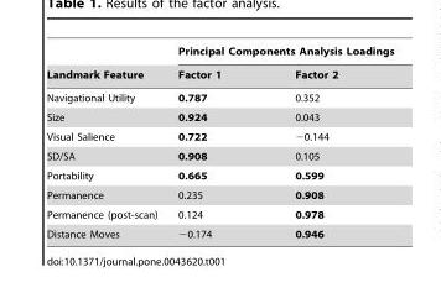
<table><thead><tr><td rowspan="2">Landmark Feature</td><td colspan="2">Principal Components Analysis Loadings</td></tr><tr><td>Factor 1</td><td>Factor 2</td></tr></thead><tbody><tr><td>Navigational Utility</td><td>0.787</td><td>0.352</td></tr><tr><td>Size</td><td>0.924</td><td>0.043</td></tr><tr><td>Visual Salience</td><td>0.722</td><td>−0.144</td></tr><tr><td>SD/SA</td><td>0.908</td><td>0.105</td></tr><tr><td>Portability</td><td>0.665</td><td>0.599</td></tr><tr><td>Permanence</td><td>0.235</td><td>0.908</td></tr><tr><td>Permanence (post-scan)</td><td>0.124</td><td>0.978</td></tr><tr><td>Distance Moves</td><td>−0.174</td><td>0.946</td></tr></tbody></table>